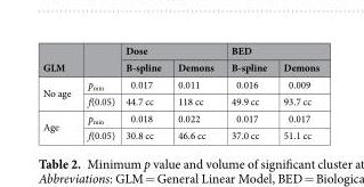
<table><thead><tr><td rowspan="2">GLM</td><td rowspan="2"></td><td colspan="2">Dose</td><td colspan="2">BED</td></tr><tr><td>B-spline</td><td>Demons</td><td>B-spline</td><td>Demons</td></tr></thead><tbody><tr><td rowspan="2">No age</td><td>p<sub>min</sub></td><td>0.017</td><td>0.011</td><td>0.016</td><td>0.009</td></tr><tr><td>f(0.05)</td><td>44.7 cc</td><td>118 cc</td><td>49.9 cc</td><td>93.7 cc</td></tr><tr><td rowspan="2">Age</td><td>p<sub>min</sub></td><td>0.018</td><td>0.022</td><td>0.017</td><td>0.017</td></tr><tr><td>f(0.05)</td><td>30.8 cc</td><td>46.6 cc</td><td>37.0 cc</td><td>51.1 cc</td></tr></tbody></table>